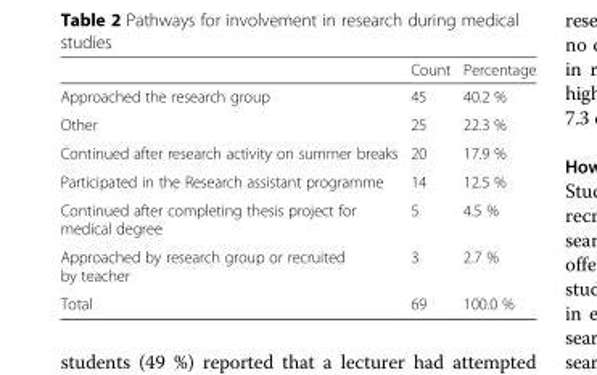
<table><thead><tr><td></td><td>Count</td><td>Percentage</td></tr></thead><tbody><tr><td>Approached the research group</td><td>45</td><td>40.2 %</td></tr><tr><td>Other</td><td>25</td><td>22.3 %</td></tr><tr><td>Continued after research activity on summer breaks</td><td>20</td><td>17.9 %</td></tr><tr><td>Participated in the Research assistant programme</td><td>14</td><td>12.5 %</td></tr><tr><td>Continued after completing thesis project for medical degree</td><td>5</td><td>4.5 %</td></tr><tr><td>Approached by research group or recruited by teacher</td><td>3</td><td>2.7 %</td></tr><tr><td>Total</td><td>69</td><td>100.0 %</td></tr></tbody></table>